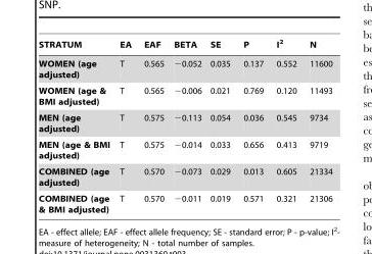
<table><thead><tr><td>STRATUM</td><td>EA</td><td>EAF</td><td>BETA</td><td>SE</td><td>P</td><td>I<sup>2</sup></td><td>N</td></tr></thead><tbody><tr><td>WOMEN (age adjusted)</td><td>T</td><td>0.565</td><td>−0.052</td><td>0.035</td><td>0.137</td><td>0.552</td><td>11600</td></tr><tr><td>WOMEN (age &amp; BMI adjusted)</td><td>T</td><td>0.565</td><td>−0.006</td><td>0.021</td><td>0.769</td><td>0.120</td><td>11493</td></tr><tr><td>MEN (age adjusted)</td><td>T</td><td>0.575</td><td>−0.113</td><td>0.054</td><td>0.036</td><td>0.545</td><td>9734</td></tr><tr><td>MEN (age &amp; BMI adjusted)</td><td>T</td><td>0.575</td><td>−0.014</td><td>0.033</td><td>0.656</td><td>0.413</td><td>9719</td></tr><tr><td>COMBINED (age adjusted)</td><td>T</td><td>0.570</td><td>−0.073</td><td>0.029</td><td>0.013</td><td>0.605</td><td>21334</td></tr><tr><td>COMBINED (age &amp; BMI adjusted)</td><td>T</td><td>0.570</td><td>−0.011</td><td>0.019</td><td>0.571</td><td>0.321</td><td>21306</td></tr></tbody></table>